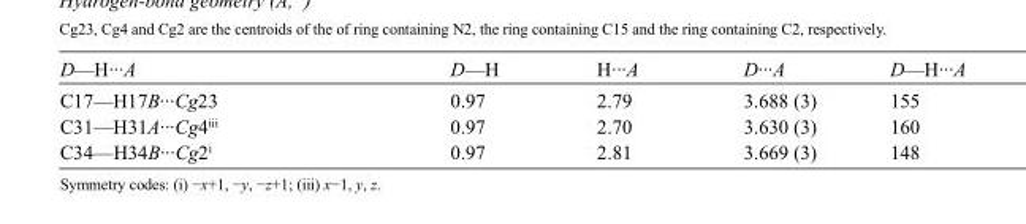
<table><tbody><tr><td>D—H···A</td><td>D—H</td><td>H···A</td><td>D···A</td><td>D—H···A</td></tr><tr><td>C17—H17B···Cg23</td><td>0.97</td><td>2.79</td><td>3.688 (3)</td><td>155</td></tr><tr><td>C31—H31A···Cg4<sup>iii</sup></td><td>0.97</td><td>2.70</td><td>3.630 (3)</td><td>160</td></tr><tr><td>C34—H34B···Cg2<sup>i</sup></td><td>0.97</td><td>2.81</td><td>3.669 (3)</td><td>148</td></tr></tbody></table>